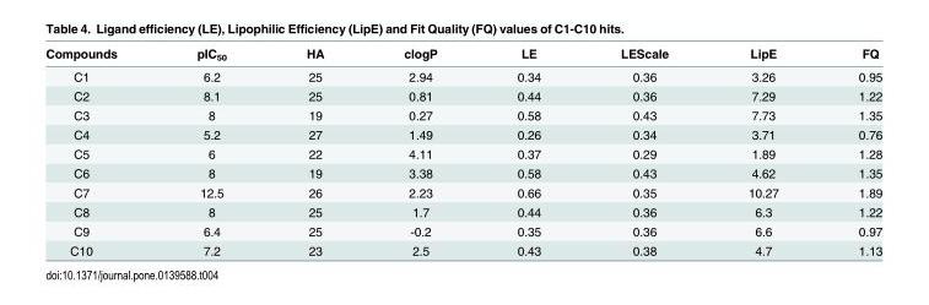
<table><thead><tr><td>Compounds</td><td>pIC<sub>50</sub></td><td>HA</td><td>clogP</td><td>LE</td><td>LEScale</td><td>LipE</td><td>FQ</td></tr></thead><tbody><tr><td>C1</td><td>6.2</td><td>25</td><td>2.94</td><td>0.34</td><td>0.36</td><td>3.26</td><td>0.95</td></tr><tr><td>C2</td><td>8.1</td><td>25</td><td>0.81</td><td>0.44</td><td>0.36</td><td>7.29</td><td>1.22</td></tr><tr><td>C3</td><td>8</td><td>19</td><td>0.27</td><td>0.58</td><td>0.43</td><td>7.73</td><td>1.35</td></tr><tr><td>C4</td><td>5.2</td><td>27</td><td>1.49</td><td>0.26</td><td>0.34</td><td>3.71</td><td>0.76</td></tr><tr><td>C5</td><td>6</td><td>22</td><td>4.11</td><td>0.37</td><td>0.29</td><td>1.89</td><td>1.28</td></tr><tr><td>C6</td><td>8</td><td>19</td><td>3.38</td><td>0.58</td><td>0.43</td><td>4.62</td><td>1.35</td></tr><tr><td>C7</td><td>12.5</td><td>26</td><td>2.23</td><td>0.66</td><td>0.35</td><td>10.27</td><td>1.89</td></tr><tr><td>C8</td><td>8</td><td>25</td><td>1.7</td><td>0.44</td><td>0.36</td><td>6.3</td><td>1.22</td></tr><tr><td>C9</td><td>6.4</td><td>25</td><td>-0.2</td><td>0.35</td><td>0.36</td><td>6.6</td><td>0.97</td></tr><tr><td>C10</td><td>7.2</td><td>23</td><td>2.5</td><td>0.43</td><td>0.38</td><td>4.7</td><td>1.13</td></tr></tbody></table>